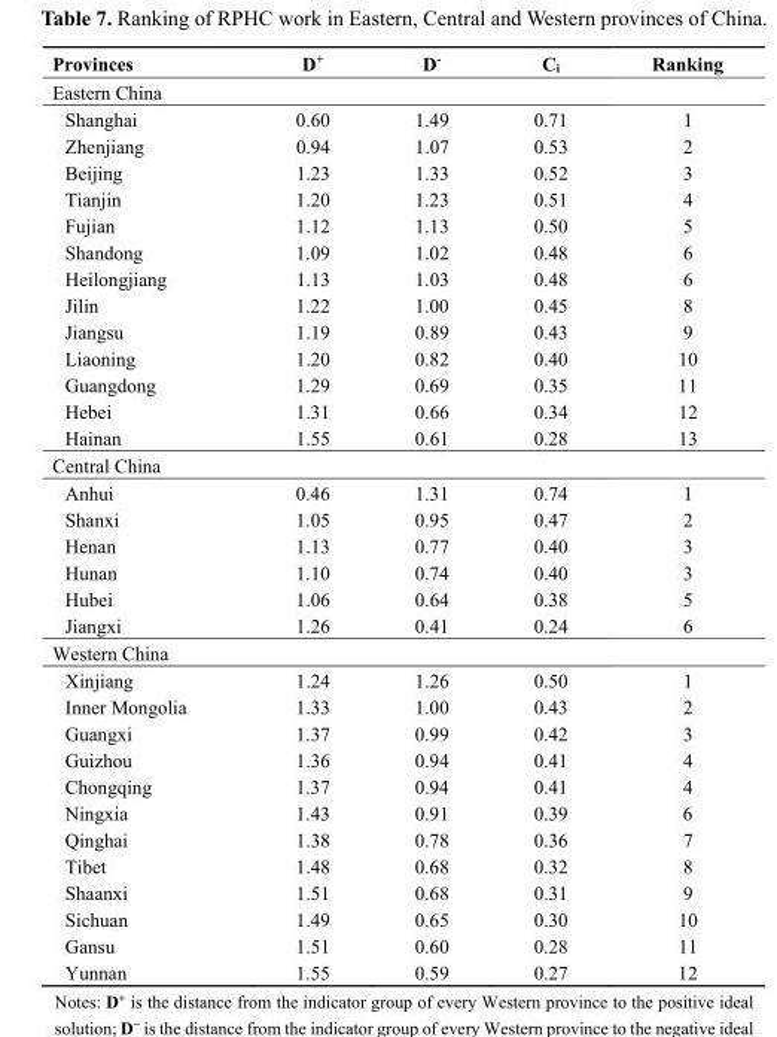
<table><thead><tr><td>Provinces</td><td>D<sup>+</sup></td><td>D<sup>-</sup></td><td>C<sub>i</sub></td><td>Ranking</td></tr></thead><tbody><tr><td colspan="5">Eastern China</td></tr><tr><td>Shanghai</td><td>0.60</td><td>1.49</td><td>0.71</td><td>1</td></tr><tr><td>Zhenjiang</td><td>0.94</td><td>1.07</td><td>0.53</td><td>2</td></tr><tr><td>Beijing</td><td>1.23</td><td>1.33</td><td>0.52</td><td>3</td></tr><tr><td>Tianjin</td><td>1.20</td><td>1.23</td><td>0.51</td><td>4</td></tr><tr><td>Fujian</td><td>1.12</td><td>1.13</td><td>0.50</td><td>5</td></tr><tr><td>Shandong</td><td>1.09</td><td>1.02</td><td>0.48</td><td>6</td></tr><tr><td>Heilongjiang</td><td>1.13</td><td>1.03</td><td>0.48</td><td>6</td></tr><tr><td>Jilin</td><td>1.22</td><td>1.00</td><td>0.45</td><td>8</td></tr><tr><td>Jiangsu</td><td>1.19</td><td>0.89</td><td>0.43</td><td>9</td></tr><tr><td>Liaoning</td><td>1.20</td><td>0.82</td><td>0.40</td><td>10</td></tr><tr><td>Guangdong</td><td>1.29</td><td>0.69</td><td>0.35</td><td>11</td></tr><tr><td>Hebei</td><td>1.31</td><td>0.66</td><td>0.34</td><td>12</td></tr><tr><td>Hainan</td><td>1.55</td><td>0.61</td><td>0.28</td><td>13</td></tr><tr><td colspan="5">Central China</td></tr><tr><td>Anhui</td><td>0.46</td><td>1.31</td><td>0.74</td><td>1</td></tr><tr><td>Shanxi</td><td>1.05</td><td>0.95</td><td>0.47</td><td>2</td></tr><tr><td>Henan</td><td>1.13</td><td>0.77</td><td>0.40</td><td>3</td></tr><tr><td>Hunan</td><td>1.10</td><td>0.74</td><td>0.40</td><td>3</td></tr><tr><td>Hubei</td><td>1.06</td><td>0.64</td><td>0.38</td><td>5</td></tr><tr><td>Jiangxi</td><td>1.26</td><td>0.41</td><td>0.24</td><td>6</td></tr><tr><td colspan="5">Western China</td></tr><tr><td>Xinjiang</td><td>1.24</td><td>1.26</td><td>0.50</td><td>1</td></tr><tr><td>Inner Mongolia</td><td>1.33</td><td>1.00</td><td>0.43</td><td>2</td></tr><tr><td>Guangxi</td><td>1.37</td><td>0.99</td><td>0.42</td><td>3</td></tr><tr><td>Guizhou</td><td>1.36</td><td>0.94</td><td>0.41</td><td>4</td></tr><tr><td>Chongqing</td><td>1.37</td><td>0.94</td><td>0.41</td><td>4</td></tr><tr><td>Ningxia</td><td>1.43</td><td>0.91</td><td>0.39</td><td>6</td></tr><tr><td>Qinghai</td><td>1.38</td><td>0.78</td><td>0.36</td><td>7</td></tr><tr><td>Tibet</td><td>1.48</td><td>0.68</td><td>0.32</td><td>8</td></tr><tr><td>Shaanxi</td><td>1.51</td><td>0.68</td><td>0.31</td><td>9</td></tr><tr><td>Sichuan</td><td>1.49</td><td>0.65</td><td>0.30</td><td>10</td></tr><tr><td>Gansu</td><td>1.51</td><td>0.60</td><td>0.28</td><td>11</td></tr><tr><td>Yunnan</td><td>1.55</td><td>0.59</td><td>0.27</td><td>12</td></tr></tbody></table>